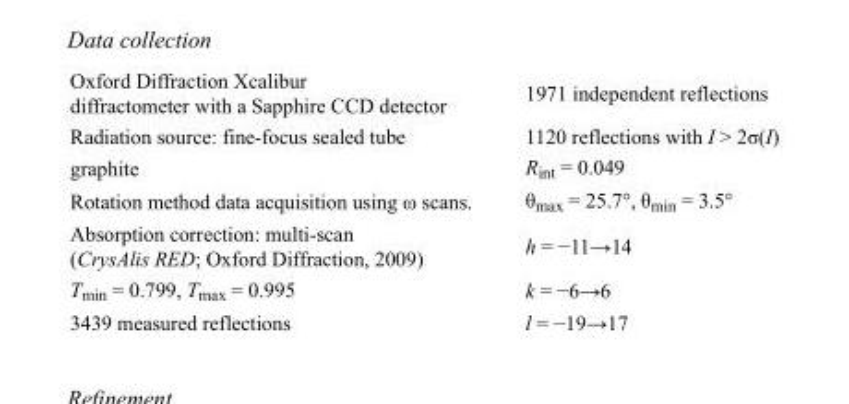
<table><tbody><tr><td>Oxford Diffraction Xcalibur diffractometer with a Sapphire CCD detector</td><td>1971 independent reflections</td></tr><tr><td>Radiation source: fine-focus sealed tube</td><td>1120 reflections with I &gt; 2σ(I)</td></tr><tr><td>graphite</td><td>R<sub>int</sub> = 0.049</td></tr><tr><td>Rotation method data acquisition using ω scans.</td><td>θ<sub>max</sub> = 25.7°, θ<sub>min</sub> = 3.5°</td></tr><tr><td>Absorption correction: multi-scan (CrysAlis RED; Oxford Diffraction, 2009)</td><td>h = −11→14</td></tr><tr><td>T<sub>min</sub> = 0.799, T<sub>max</sub> = 0.995</td><td>k = −6→6</td></tr><tr><td>3439 measured reflections</td><td>l = −19→17</td></tr></tbody></table>